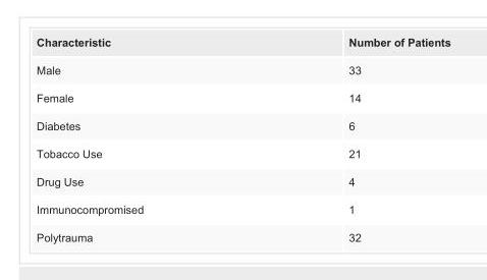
<table><tbody><tr><td>Characteristic</td><td>Number of Patients</td></tr><tr><td>Male</td><td>33</td></tr><tr><td>Female</td><td>14</td></tr><tr><td>Diabetes</td><td>6</td></tr><tr><td>Tobacco Use</td><td>21</td></tr><tr><td>Drug Use</td><td>4</td></tr><tr><td>Immunocompromised</td><td>1</td></tr><tr><td>Polytrauma</td><td>32</td></tr></tbody></table>